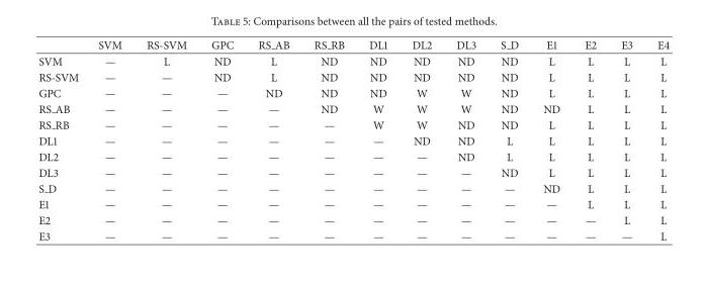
<table><thead><tr><td></td><td>SVM</td><td>RS-SVM</td><td>GPC</td><td>RS AB</td><td>RS RB</td><td>DL1</td><td>DL2</td><td>DL3</td><td>S D</td><td>E1</td><td>E2</td><td>E3</td><td>E4</td></tr></thead><tbody><tr><td>SVM</td><td>—</td><td>L</td><td>ND</td><td>L</td><td>ND</td><td>ND</td><td>ND</td><td>ND</td><td>ND</td><td>L</td><td>L</td><td>L</td><td>L</td></tr><tr><td>RS-SVM</td><td>—</td><td>—</td><td>ND</td><td>L</td><td>ND</td><td>ND</td><td>ND</td><td>ND</td><td>ND</td><td>L</td><td>L</td><td>L</td><td>L</td></tr><tr><td>GPC</td><td>—</td><td>—</td><td>—</td><td>ND</td><td>ND</td><td>ND</td><td>W</td><td>W</td><td>ND</td><td>L</td><td>L</td><td>L</td><td>L</td></tr><tr><td>RS AB</td><td>—</td><td>—</td><td>—</td><td>—</td><td>ND</td><td>W</td><td>W</td><td>W</td><td>ND</td><td>ND</td><td>L</td><td>L</td><td>L</td></tr><tr><td>RS RB</td><td>—</td><td>—</td><td>—</td><td>—</td><td>—</td><td>W</td><td>W</td><td>ND</td><td>ND</td><td>L</td><td>L</td><td>L</td><td>L</td></tr><tr><td>DL1</td><td>—</td><td>—</td><td>—</td><td>—</td><td>—</td><td>—</td><td>ND</td><td>ND</td><td>L</td><td>L</td><td>L</td><td>L</td><td>L</td></tr><tr><td>DL2</td><td>—</td><td>—</td><td>—</td><td>—</td><td>—</td><td>—</td><td>—</td><td>ND</td><td>L</td><td>L</td><td>L</td><td>L</td><td>L</td></tr><tr><td>DL3</td><td>—</td><td>—</td><td>—</td><td>—</td><td>—</td><td>—</td><td>—</td><td>—</td><td>ND</td><td>L</td><td>L</td><td>L</td><td>L</td></tr><tr><td>S D</td><td>—</td><td>—</td><td>—</td><td>—</td><td>—</td><td>—</td><td>—</td><td>—</td><td>—</td><td>ND</td><td>L</td><td>L</td><td>L</td></tr><tr><td>E1</td><td>—</td><td>—</td><td>—</td><td>—</td><td>—</td><td>—</td><td>—</td><td>—</td><td>—</td><td>—</td><td>L</td><td>L</td><td>L</td></tr><tr><td>E2</td><td>—</td><td>—</td><td>—</td><td>—</td><td>—</td><td>—</td><td>—</td><td>—</td><td>—</td><td>—</td><td>—</td><td>L</td><td>L</td></tr><tr><td>E3</td><td>—</td><td>—</td><td>—</td><td>—</td><td>—</td><td>—</td><td>—</td><td>—</td><td>—</td><td>—</td><td>—</td><td>—</td><td>L</td></tr></tbody></table>